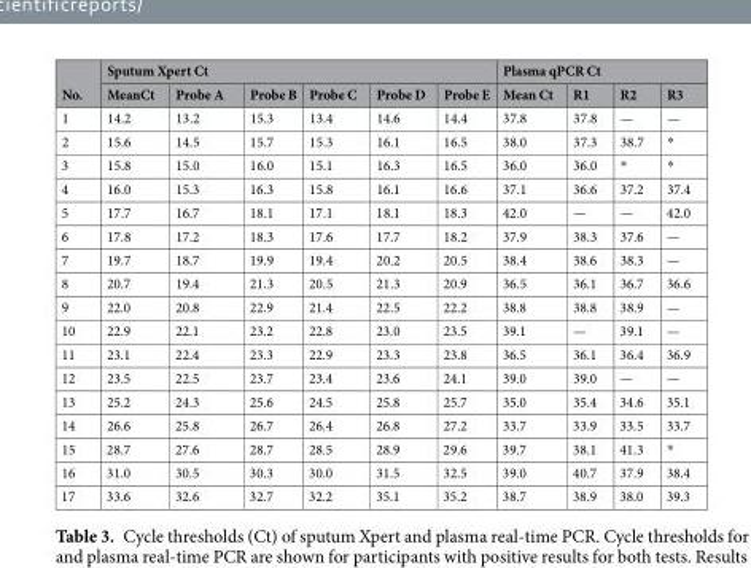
<table><thead><tr><td rowspan="2">No.</td><td colspan="6">Sputum Xpert Ct</td><td colspan="4">Plasma qPCR Ct</td></tr><tr><td>MeanCt</td><td>Probe A</td><td>Probe B</td><td>Probe C</td><td>Probe D</td><td>Probe E</td><td>Mean Ct</td><td>R1</td><td>R2</td><td>R3</td></tr></thead><tbody><tr><td>1</td><td>14.2</td><td>13.2</td><td>15.3</td><td>13.4</td><td>14.6</td><td>14.4</td><td>37.8</td><td>37.8</td><td>—</td><td>—</td></tr><tr><td>2</td><td>15.6</td><td>14.5</td><td>15.7</td><td>15.3</td><td>16.1</td><td>16.5</td><td>38.0</td><td>37.3</td><td>38.7</td><td>*</td></tr><tr><td>3</td><td>15.8</td><td>15.0</td><td>16.0</td><td>15.1</td><td>16.3</td><td>16.5</td><td>36.0</td><td>36.0</td><td>*</td><td>*</td></tr><tr><td>4</td><td>16.0</td><td>15.3</td><td>16.3</td><td>15.8</td><td>16.1</td><td>16.6</td><td>37.1</td><td>36.6</td><td>37.2</td><td>37.4</td></tr><tr><td>5</td><td>17.7</td><td>16.7</td><td>18.1</td><td>17.1</td><td>18.1</td><td>18.3</td><td>42.0</td><td>—</td><td>—</td><td>42.0</td></tr><tr><td>6</td><td>17.8</td><td>17.2</td><td>18.3</td><td>17.6</td><td>17.7</td><td>18.2</td><td>37.9</td><td>38.3</td><td>37.6</td><td>—</td></tr><tr><td>7</td><td>19.7</td><td>18.7</td><td>19.9</td><td>19.4</td><td>20.2</td><td>20.5</td><td>38.4</td><td>38.6</td><td>38.3</td><td>—</td></tr><tr><td>8</td><td>20.7</td><td>19.4</td><td>21.3</td><td>20.5</td><td>21.3</td><td>20.9</td><td>36.5</td><td>36.1</td><td>36.7</td><td>36.6</td></tr><tr><td>9</td><td>22.0</td><td>20.8</td><td>22.9</td><td>21.4</td><td>22.5</td><td>22.2</td><td>38.8</td><td>38.8</td><td>38.9</td><td>—</td></tr><tr><td>10</td><td>22.9</td><td>22.1</td><td>23.2</td><td>22.8</td><td>23.0</td><td>23.5</td><td>39.1</td><td>—</td><td>39.1</td><td>—</td></tr><tr><td>11</td><td>23.1</td><td>22.4</td><td>23.3</td><td>22.9</td><td>23.3</td><td>23.8</td><td>36.5</td><td>36.1</td><td>36.4</td><td>36.9</td></tr><tr><td>12</td><td>23.5</td><td>22.5</td><td>23.7</td><td>23.4</td><td>23.6</td><td>24.1</td><td>39.0</td><td>39.0</td><td>—</td><td>—</td></tr><tr><td>13</td><td>25.2</td><td>24.3</td><td>25.6</td><td>24.5</td><td>25.8</td><td>25.7</td><td>35.0</td><td>35.4</td><td>34.6</td><td>35.1</td></tr><tr><td>14</td><td>26.6</td><td>25.8</td><td>26.7</td><td>26.4</td><td>26.8</td><td>27.2</td><td>33.7</td><td>33.9</td><td>33.5</td><td>33.7</td></tr><tr><td>15</td><td>28.7</td><td>27.6</td><td>28.7</td><td>28.5</td><td>28.9</td><td>29.6</td><td>39.7</td><td>38.1</td><td>41.3</td><td>*</td></tr><tr><td>16</td><td>31.0</td><td>30.5</td><td>30.3</td><td>30.0</td><td>31.5</td><td>32.5</td><td>39.0</td><td>40.7</td><td>37.9</td><td>38.4</td></tr><tr><td>17</td><td>33.6</td><td>32.6</td><td>32.7</td><td>32.2</td><td>35.1</td><td>35.2</td><td>38.7</td><td>38.9</td><td>38.0</td><td>39.3</td></tr></tbody></table>